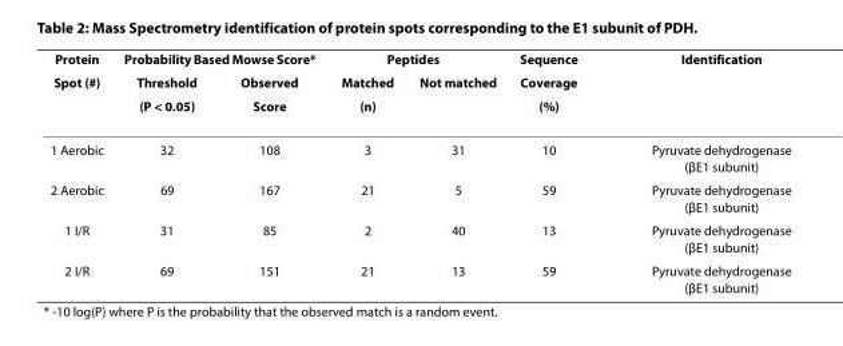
<table><thead><tr><td rowspan="3">Protein Spot (#)</td><td colspan="2">Probability Based Mowse Score*</td><td colspan="2">Peptides</td><td rowspan="3">Sequence Coverage (%)</td><td rowspan="3">Identification</td></tr><tr><td rowspan="2">Threshold (P &lt; 0.05)</td><td rowspan="2">Observed Score</td><td rowspan="2">Matched (n)</td><td rowspan="2">Not matched</td></tr><tr></tr></thead><tbody><tr><td>1 Aerobic</td><td>32</td><td>108</td><td>3</td><td>31</td><td>10</td><td>Pyruvate dehydrogenase (βE1 subunit)</td></tr><tr><td>2 Aerobic</td><td>69</td><td>167</td><td>21</td><td>5</td><td>59</td><td>Pyruvate dehydrogenase (βE1 subunit)</td></tr><tr><td>1 I/R</td><td>31</td><td>85</td><td>2</td><td>40</td><td>13</td><td>Pyruvate dehydrogenase (βE1 subunit)</td></tr><tr><td>2 I/R</td><td>69</td><td>151</td><td>21</td><td>13</td><td>59</td><td>Pyruvate dehydrogenase (βE1 subunit)</td></tr></tbody></table>